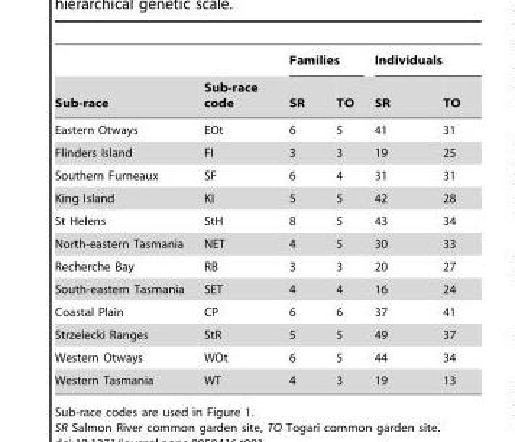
<table><thead><tr><td rowspan="2">Sub-race</td><td rowspan="2">Sub-race code</td><td colspan="2">Families</td><td colspan="2">Individuals</td></tr><tr><td>SR</td><td>TO</td><td>SR</td><td>TO</td></tr></thead><tbody><tr><td>Eastern Otways</td><td>EOt</td><td>6</td><td>5</td><td>41</td><td>31</td></tr><tr><td>Flinders Island</td><td>FI</td><td>3</td><td>3</td><td>19</td><td>25</td></tr><tr><td>Southern Furneaux</td><td>SF</td><td>6</td><td>4</td><td>31</td><td>31</td></tr><tr><td>King Island</td><td>KI</td><td>5</td><td>5</td><td>42</td><td>28</td></tr><tr><td>St Helens</td><td>StH</td><td>8</td><td>5</td><td>43</td><td>34</td></tr><tr><td>North-eastern Tasmania</td><td>NET</td><td>4</td><td>5</td><td>30</td><td>33</td></tr><tr><td>Recherche Bay</td><td>RB</td><td>3</td><td>3</td><td>20</td><td>27</td></tr><tr><td>South-eastern Tasmania</td><td>SET</td><td>4</td><td>4</td><td>16</td><td>24</td></tr><tr><td>Coastal Plain</td><td>CP</td><td>6</td><td>6</td><td>37</td><td>41</td></tr><tr><td>Strzelecki Ranges</td><td>StR</td><td>5</td><td>5</td><td>49</td><td>37</td></tr><tr><td>Western Otways</td><td>WOt</td><td>6</td><td>5</td><td>44</td><td>34</td></tr><tr><td>Western Tasmania</td><td>WT</td><td>4</td><td>3</td><td>19</td><td>13</td></tr></tbody></table>